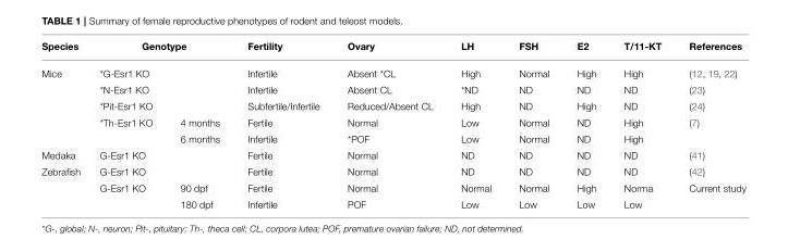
<table><thead><tr><td>Species</td><td colspan="2">Genotype</td><td>Fertility</td><td>Ovary</td><td>LH</td><td>FSH</td><td>E2</td><td>T/11-KT</td><td>References</td></tr></thead><tbody><tr><td rowspan="5">Mice</td><td colspan="2">*G-Esr1 KO</td><td>Infertile</td><td>Absent *CL</td><td>High</td><td>Normal</td><td>High</td><td>High</td><td>(12, 19, 22)</td></tr><tr><td colspan="2">*N-Esr1 KO</td><td>Infertile</td><td>Absent CL</td><td>*ND</td><td>ND</td><td>ND</td><td>ND</td><td>(23)</td></tr><tr><td colspan="2">*Pit-Esr1 KO</td><td>Subfertile/Infertile</td><td>Reduced/Absent CL</td><td>High</td><td>ND</td><td>High</td><td>ND</td><td>(24)</td></tr><tr><td>*Th-Esr1 KO</td><td>4 months</td><td>Fertile</td><td>Normal</td><td>Low</td><td>Normal</td><td>ND</td><td>High</td><td>(7)</td></tr><tr><td></td><td>6 months</td><td>Infertile</td><td>*POF</td><td>Low</td><td>Normal</td><td>ND</td><td>High</td><td></td></tr><tr><td>Medaka</td><td colspan="2">G-Esr1 KO</td><td>Fertile</td><td>Normal</td><td>ND</td><td>ND</td><td>ND</td><td>ND</td><td>(41)</td></tr><tr><td rowspan="3">Zebrafish</td><td colspan="2">G-Esr1 KO</td><td>Fertile</td><td>Normal</td><td>ND</td><td>ND</td><td>ND</td><td>ND</td><td>(42)</td></tr><tr><td>G-Esr1 KO</td><td>90 dpf</td><td>Fertile</td><td>Normal</td><td>Normal</td><td>Normal</td><td>High</td><td>Norma</td><td>Current study</td></tr><tr><td></td><td>180 dpf</td><td>Infertile</td><td>POF</td><td>Low</td><td>Low</td><td>Low</td><td>Low</td><td></td></tr></tbody></table>